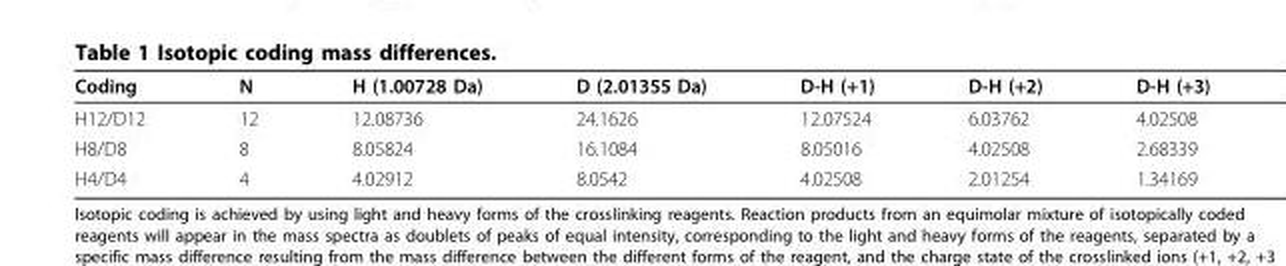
<table><thead><tr><td>Coding</td><td>N</td><td>H (1.00728 Da)</td><td>D (2.01355 Da)</td><td>D-H (+1)</td><td>D-H (+2)</td><td>D-H (+3)</td></tr></thead><tbody><tr><td>H12/D12</td><td>12</td><td>12.08736</td><td>24.1626</td><td>12.07524</td><td>6.03762</td><td>4.02508</td></tr><tr><td>H8/D8</td><td>8</td><td>8.05824</td><td>16.1084</td><td>8.05016</td><td>4.02508</td><td>2.68339</td></tr><tr><td>H4/D4</td><td>4</td><td>4.02912</td><td>8.0542</td><td>4.02508</td><td>2.01254</td><td>1.34169</td></tr></tbody></table>